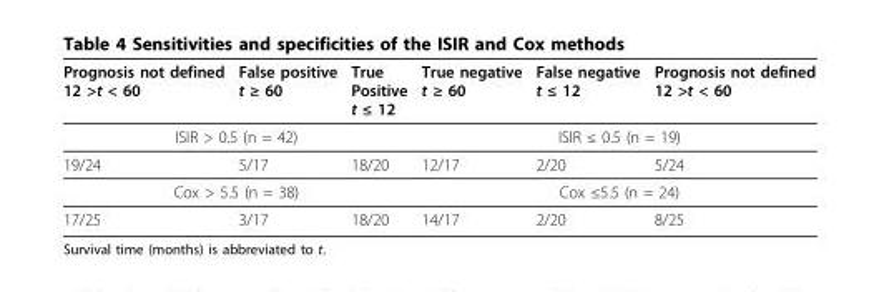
<table><thead><tr><td>Prognosis not defined 12 &gt;t &lt; 60</td><td>False positive t ≥ 60</td><td>True Positive t ≤ 12</td><td>True negative t ≥ 60</td><td>False negative t ≤ 12</td><td>Prognosis not defined 12 &gt;t &lt; 60</td></tr></thead><tbody><tr><td colspan="3">ISIR &gt; 0.5 (n = 42)</td><td colspan="3">ISIR ≤ 0.5 (n = 19)</td></tr><tr><td>19/24</td><td>5/17</td><td>18/20</td><td>12/17</td><td>2/20</td><td>5/24</td></tr><tr><td colspan="3">Cox &gt; 5.5 (n = 38)</td><td colspan="3">Cox ≤5.5 (n = 24)</td></tr><tr><td>17/25</td><td>3/17</td><td>18/20</td><td>14/17</td><td>2/20</td><td>8/25</td></tr></tbody></table>